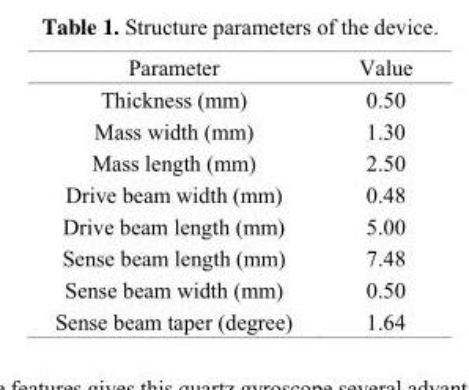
<table><thead><tr><td>Parameter</td><td>Value</td></tr></thead><tbody><tr><td>Thickness (mm)</td><td>0.50</td></tr><tr><td>Mass width (mm)</td><td>1.30</td></tr><tr><td>Mass length (mm)</td><td>2.50</td></tr><tr><td>Drive beam width (mm)</td><td>0.48</td></tr><tr><td>Drive beam length (mm)</td><td>5.00</td></tr><tr><td>Sense beam length (mm)</td><td>7.48</td></tr><tr><td>Sense beam width (mm)</td><td>0.50</td></tr><tr><td>Sense beam taper (degree)</td><td>1.64</td></tr></tbody></table>